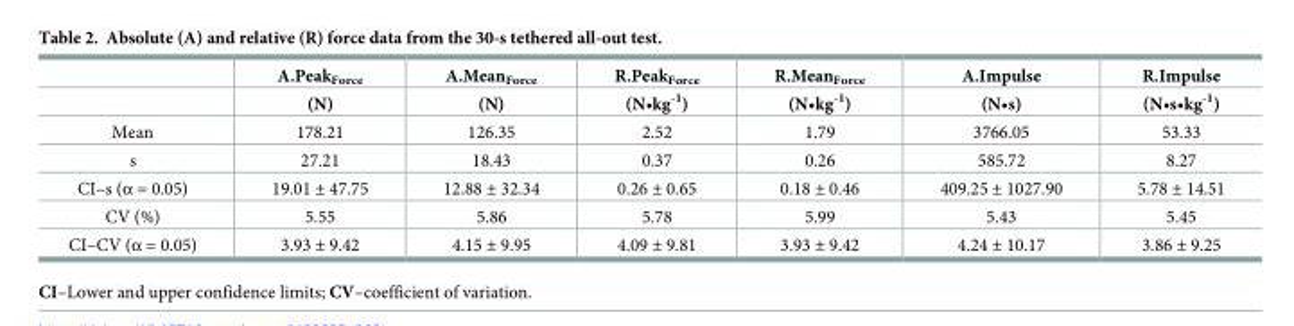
<table><thead><tr><td rowspan="2"></td><td rowspan="2">A.Peak<sub>Force</sub> (N)</td><td rowspan="2">A.Mean<sub>Force</sub> (N)</td><td rowspan="2">R.Peak<sub>Force</sub> (N•kg<sup>-1</sup>)</td><td rowspan="2">R.Mean<sub>Force</sub> (N•kg<sup>-1</sup>)</td><td rowspan="2">A.Impulse (N•s)</td><td rowspan="2">R.Impulse (N•s•kg<sup>-1</sup>)</td></tr><tr></tr></thead><tbody><tr><td>Mean</td><td>178.21</td><td>126.35</td><td>2.52</td><td>1.79</td><td>3766.05</td><td>53.33</td></tr><tr><td>s</td><td>27.21</td><td>18.43</td><td>0.37</td><td>0.26</td><td>585.72</td><td>8.27</td></tr><tr><td>CI–s (α = 0.05)</td><td>19.01 ± 47.75</td><td>12.88 ± 32.34</td><td>0.26 ± 0.65</td><td>0.18 ± 0.46</td><td>409.25 ± 1027.90</td><td>5.78 ± 14.51</td></tr><tr><td>CV (%)</td><td>5.55</td><td>5.86</td><td>5.78</td><td>5.99</td><td>5.43</td><td>5.45</td></tr><tr><td>CI–CV (α = 0.05)</td><td>3.93 ± 9.42</td><td>4.15 ± 9.95</td><td>4.09 ± 9.81</td><td>3.93 ± 9.42</td><td>4.24 ± 10.17</td><td>3.86 ± 9.25</td></tr></tbody></table>